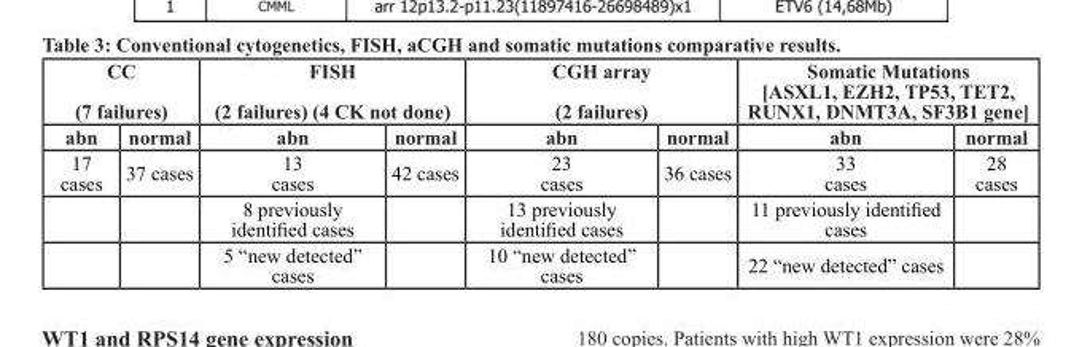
<table><thead><tr><td colspan="2">CC (7 failures)</td><td colspan="2">FISH (2 failures) (4 CK not done)</td><td colspan="2">CGH array (2 failures)</td><td colspan="2">Somatic Mutations [ASXL1, EZH2, TP53, TET2, RUNX1, DNMT3A, SF3B1 gene]</td></tr><tr><td>abn</td><td>normal</td><td>abn</td><td>normal</td><td>abn</td><td>normal</td><td>abn</td><td>normal</td></tr></thead><tbody><tr><td rowspan="3">17 cases</td><td>37 cases</td><td>13 cases</td><td>42 cases</td><td>23 cases</td><td>36 cases</td><td>33 cases</td><td>28 cases</td></tr><tr><td></td><td>8 previously identified cases</td><td></td><td>13 previously identified cases</td><td></td><td>11 previously identified cases</td><td></td></tr><tr><td></td><td>5 “new detected” cases</td><td></td><td>10 “new detected” cases</td><td></td><td>22 “new detected” cases</td><td></td></tr></tbody></table>